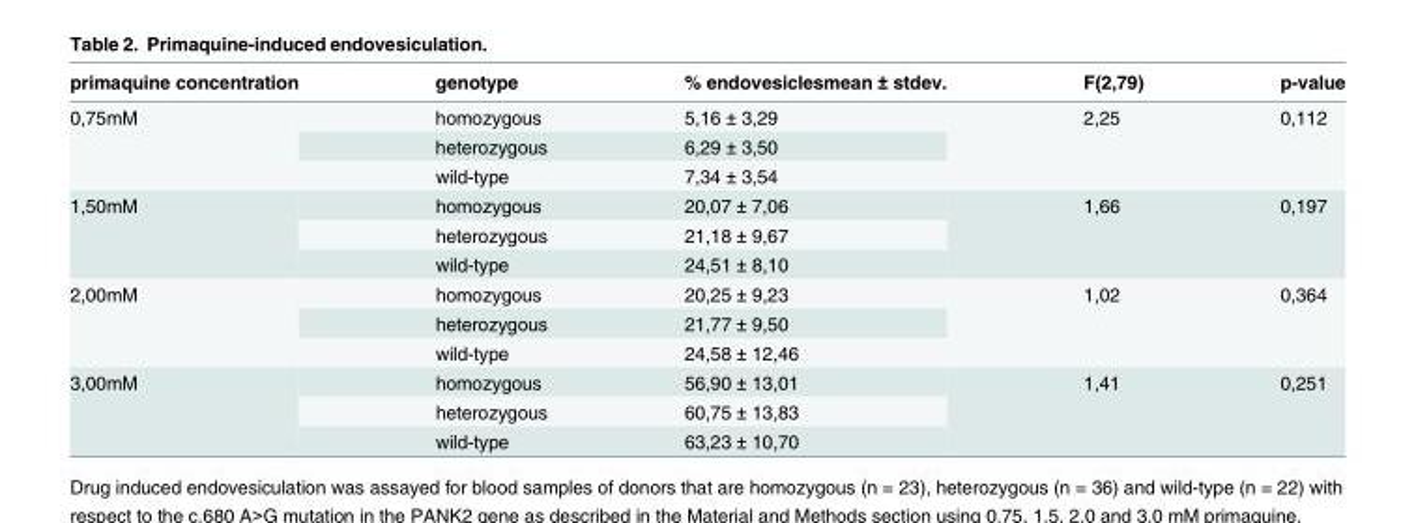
<table><thead><tr><td>primaquine concentration</td><td>genotype</td><td>% endovesiclesmean ± stdev.</td><td>F(2,79)</td><td>p-value</td></tr></thead><tbody><tr><td rowspan="3">0,75mM</td><td>homozygous</td><td>5,16 ± 3,29</td><td rowspan="3">2,25</td><td rowspan="3">0,112</td></tr><tr><td>heterozygous</td><td>6,29 ± 3,50</td></tr><tr><td>wild-type</td><td>7,34 ± 3,54</td></tr><tr><td rowspan="3">1,50mM</td><td>homozygous</td><td>20,07 ± 7,06</td><td rowspan="3">1,66</td><td rowspan="3">0,197</td></tr><tr><td>heterozygous</td><td>21,18 ± 9,67</td></tr><tr><td>wild-type</td><td>24,51 ± 8,10</td></tr><tr><td rowspan="3">2,00mM</td><td>homozygous</td><td>20,25 ± 9,23</td><td rowspan="3">1,02</td><td rowspan="3">0,364</td></tr><tr><td>heterozygous</td><td>21,77 ± 9,50</td></tr><tr><td>wild-type</td><td>24,58 ± 12,46</td></tr><tr><td rowspan="3">3,00mM</td><td>homozygous</td><td>56,90 ± 13,01</td><td rowspan="3">1,41</td><td rowspan="3">0,251</td></tr><tr><td>heterozygous</td><td>60,75 ± 13,83</td></tr><tr><td>wild-type</td><td>63,23 ± 10,70</td></tr></tbody></table>